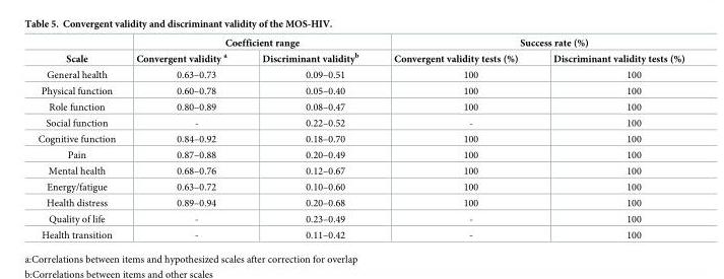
<table><thead><tr><td rowspan="2">Scale</td><td colspan="2">Coefficient range</td><td colspan="2">Success rate (%)</td></tr><tr><td>Convergent validity <sup>a</sup></td><td>Discriminant validity<sup>b</sup></td><td>Convergent validity tests (%)</td><td>Discriminant validity tests (%)</td></tr></thead><tbody><tr><td>General health</td><td>0.63–0.73</td><td>0.09–0.51</td><td>100</td><td>100</td></tr><tr><td>Physical function</td><td>0.60–0.78</td><td>0.05–0.40</td><td>100</td><td>100</td></tr><tr><td>Role function</td><td>0.80–0.89</td><td>0.08–0.47</td><td>100</td><td>100</td></tr><tr><td>Social function</td><td>-</td><td>0.22–0.52</td><td>-</td><td>100</td></tr><tr><td>Cognitive function</td><td>0.84–0.92</td><td>0.18–0.70</td><td>100</td><td>100</td></tr><tr><td>Pain</td><td>0.87–0.88</td><td>0.20–0.49</td><td>100</td><td>100</td></tr><tr><td>Mental health</td><td>0.68–0.76</td><td>0.12–0.67</td><td>100</td><td>100</td></tr><tr><td>Energy/fatigue</td><td>0.63–0.72</td><td>0.10–0.60</td><td>100</td><td>100</td></tr><tr><td>Health distress</td><td>0.89–0.94</td><td>0.20–0.68</td><td>100</td><td>100</td></tr><tr><td>Quality of life</td><td>-</td><td>0.23–0.49</td><td>-</td><td>100</td></tr><tr><td>Health transition</td><td>-</td><td>0.11–0.42</td><td>-</td><td>100</td></tr></tbody></table>